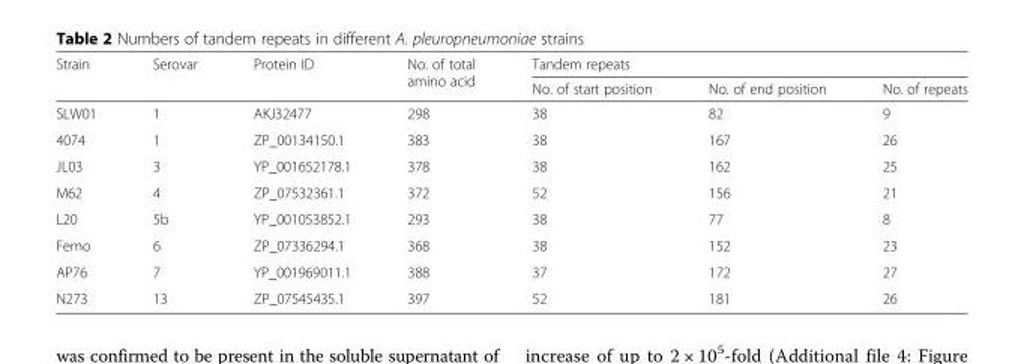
<table><thead><tr><td rowspan="2">Strain</td><td rowspan="2">Serovar</td><td rowspan="2">Protein ID</td><td rowspan="2">No. of total amino acid</td><td colspan="3">Tandem repeats</td></tr><tr><td>No. of start position</td><td>No. of end position</td><td>No. of repeats</td></tr></thead><tbody><tr><td>SLW01</td><td>1</td><td>AKJ32477</td><td>298</td><td>38</td><td>82</td><td>9</td></tr><tr><td>4074</td><td>1</td><td>ZP_00134150.1</td><td>383</td><td>38</td><td>167</td><td>26</td></tr><tr><td>JL03</td><td>3</td><td>YP_001652178.1</td><td>378</td><td>38</td><td>162</td><td>25</td></tr><tr><td>M62</td><td>4</td><td>ZP_07532361.1</td><td>372</td><td>52</td><td>156</td><td>21</td></tr><tr><td>L20</td><td>5b</td><td>YP_001053852.1</td><td>293</td><td>38</td><td>77</td><td>8</td></tr><tr><td>Femo</td><td>6</td><td>ZP_07336294.1</td><td>368</td><td>38</td><td>152</td><td>23</td></tr><tr><td>AP76</td><td>7</td><td>YP_001969011.1</td><td>388</td><td>37</td><td>172</td><td>27</td></tr><tr><td>N273</td><td>13</td><td>ZP_07545435.1</td><td>397</td><td>52</td><td>181</td><td>26</td></tr></tbody></table>